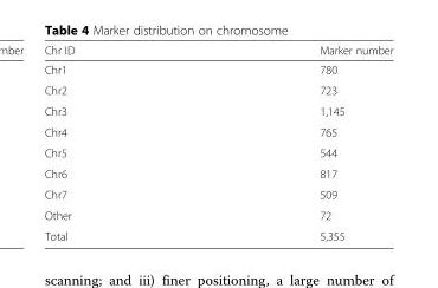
<table><thead><tr><td>Chr ID</td><td>Marker number</td></tr></thead><tbody><tr><td>Chr1</td><td>780</td></tr><tr><td>Chr2</td><td>723</td></tr><tr><td>Chr3</td><td>1,145</td></tr><tr><td>Chr4</td><td>765</td></tr><tr><td>Chr5</td><td>544</td></tr><tr><td>Chr6</td><td>817</td></tr><tr><td>Chr7</td><td>509</td></tr><tr><td>Other</td><td>72</td></tr><tr><td>Total</td><td>5,355</td></tr></tbody></table>